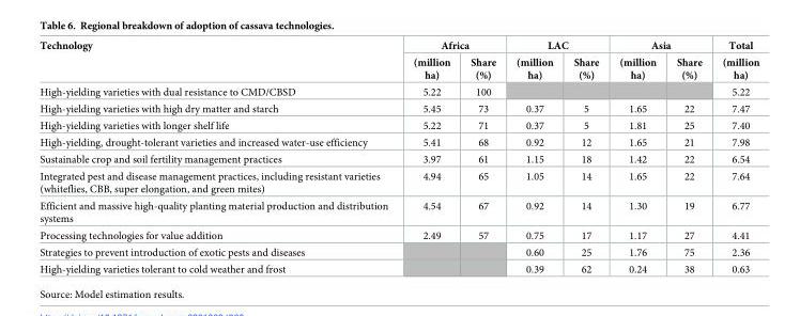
<table><thead><tr><td rowspan="2">Technology</td><td colspan="2">Africa</td><td colspan="2">LAC</td><td colspan="2">Asia</td><td rowspan="2">Total (million ha)</td></tr><tr><td>(million ha)</td><td>Share (%)</td><td>(million ha)</td><td>Share (%)</td><td>(million ha)</td><td>Share (%)</td></tr></thead><tbody><tr><td>High-yielding varieties with dual resistance to CMD/CBSD</td><td>5.22</td><td>100</td><td></td><td></td><td></td><td></td><td>5.22</td></tr><tr><td>High-yielding varieties with high dry matter and starch</td><td>5.45</td><td>73</td><td>0.37</td><td>5</td><td>1.65</td><td>22</td><td>7.47</td></tr><tr><td>High-yielding varieties with longer shelf life</td><td>5.22</td><td>71</td><td>0.37</td><td>5</td><td>1.81</td><td>25</td><td>7.40</td></tr><tr><td>High-yielding, drought-tolerant varieties and increased water-use efficiency</td><td>5.41</td><td>68</td><td>0.92</td><td>12</td><td>1.65</td><td>21</td><td>7.98</td></tr><tr><td>Sustainable crop and soil fertility management practices</td><td>3.97</td><td>61</td><td>1.15</td><td>18</td><td>1.42</td><td>22</td><td>6.54</td></tr><tr><td>Integrated pest and disease management practices, including resistant varieties (whiteflies, CBB, super elongation, and green mites)</td><td>4.94</td><td>65</td><td>1.05</td><td>14</td><td>1.65</td><td>22</td><td>7.64</td></tr><tr><td>Efficient and massive high-quality planting material production and distribution systems</td><td>4.54</td><td>67</td><td>0.92</td><td>14</td><td>1.30</td><td>19</td><td>6.77</td></tr><tr><td>Processing technologies for value addition</td><td>2.49</td><td>57</td><td>0.75</td><td>17</td><td>1.17</td><td>27</td><td>4.41</td></tr><tr><td>Strategies to prevent introduction of exotic pests and diseases</td><td></td><td></td><td>0.60</td><td>25</td><td>1.76</td><td>75</td><td>2.36</td></tr><tr><td>High-yielding varieties tolerant to cold weather and frost</td><td></td><td></td><td>0.39</td><td>62</td><td>0.24</td><td>38</td><td>0.63</td></tr></tbody></table>